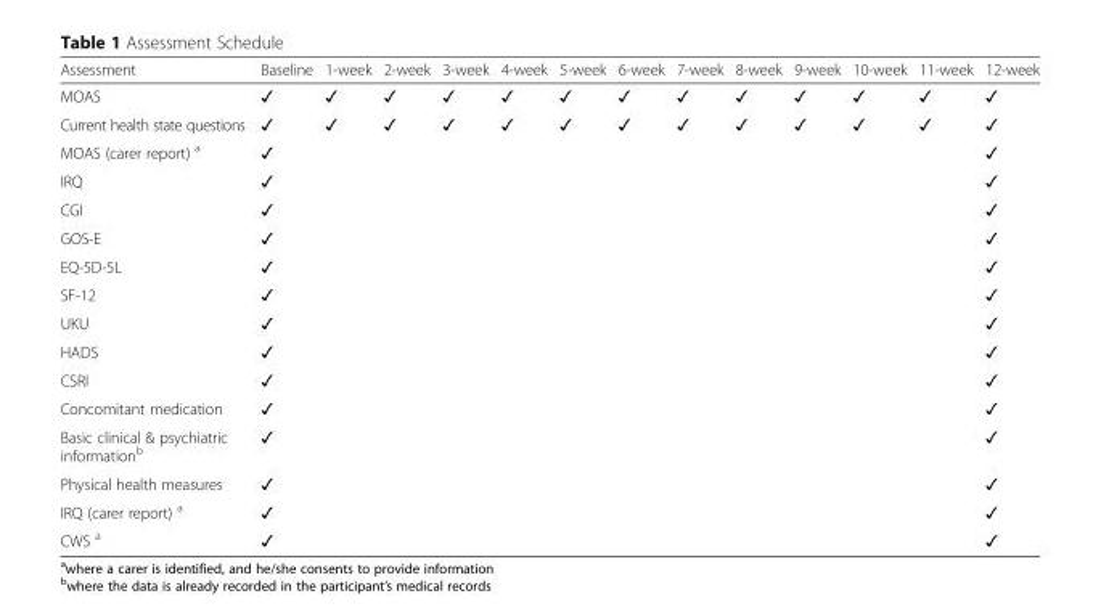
<table><thead><tr><td>Assessment</td><td>Baseline</td><td>1-week</td><td>2-week</td><td>3-week</td><td>4-week</td><td>5-week</td><td>6-week</td><td>7-week</td><td>8-week</td><td>9-week</td><td>10-week</td><td>11-week</td><td>12-week</td></tr></thead><tbody><tr><td>MOAS</td><td>✓</td><td>✓</td><td>✓</td><td>✓</td><td>✓</td><td>✓</td><td>✓</td><td>✓</td><td>✓</td><td>✓</td><td>✓</td><td>✓</td><td>✓</td></tr><tr><td>Current health state questions</td><td>✓</td><td>✓</td><td>✓</td><td>✓</td><td>✓</td><td>✓</td><td>✓</td><td>✓</td><td>✓</td><td>✓</td><td>✓</td><td>✓</td><td>✓</td></tr><tr><td>MOAS (carer report) <sup>a</sup></td><td>✓</td><td></td><td></td><td></td><td colspan="8"></td><td>✓</td></tr><tr><td>IRQ</td><td>✓</td><td></td><td></td><td></td><td colspan="8"></td><td>✓</td></tr><tr><td>CGI</td><td>✓</td><td></td><td></td><td></td><td colspan="8"></td><td>✓</td></tr><tr><td>GOS-E</td><td>✓</td><td></td><td></td><td></td><td colspan="8"></td><td>✓</td></tr><tr><td>EQ-5D-5L</td><td>✓</td><td></td><td></td><td></td><td colspan="8"></td><td>✓</td></tr><tr><td>SF-12</td><td>✓</td><td></td><td></td><td></td><td colspan="8"></td><td>✓</td></tr><tr><td>UKU</td><td>✓</td><td></td><td></td><td></td><td colspan="8"></td><td>✓</td></tr><tr><td>HADS</td><td>✓</td><td></td><td></td><td></td><td colspan="8"></td><td>✓</td></tr><tr><td>CSRI</td><td>✓</td><td></td><td></td><td></td><td colspan="8"></td><td>✓</td></tr><tr><td>Concomitant medication</td><td>✓</td><td></td><td></td><td></td><td colspan="8"></td><td>✓</td></tr><tr><td>Basic clinical &amp; psychiatric information<sup>b</sup></td><td>✓</td><td></td><td></td><td></td><td colspan="8"></td><td>✓</td></tr><tr><td>Physical health measures</td><td>✓</td><td></td><td></td><td></td><td colspan="8"></td><td>✓</td></tr><tr><td>IRQ (carer report) <sup>a</sup></td><td>✓</td><td></td><td></td><td></td><td colspan="8"></td><td>✓</td></tr><tr><td>CWS <sup>a</sup></td><td>✓</td><td></td><td></td><td></td><td colspan="8"></td><td>✓</td></tr></tbody></table>